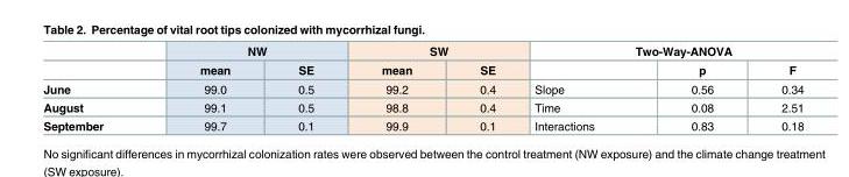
<table><thead><tr><td rowspan="2"></td><td colspan="2">NW</td><td colspan="2">SW</td><td colspan="3">Two-Way-ANOVA</td></tr><tr><td>mean</td><td>SE</td><td>mean</td><td>SE</td><td></td><td>p</td><td>F</td></tr></thead><tbody><tr><td>June</td><td>99.0</td><td>0.5</td><td>99.2</td><td>0.4</td><td>Slope</td><td>0.56</td><td>0.34</td></tr><tr><td>August</td><td>99.1</td><td>0.5</td><td>98.8</td><td>0.4</td><td>Time</td><td>0.08</td><td>2.51</td></tr><tr><td>September</td><td>99.7</td><td>0.1</td><td>99.9</td><td>0.1</td><td>Interactions</td><td>0.83</td><td>0.18</td></tr></tbody></table>